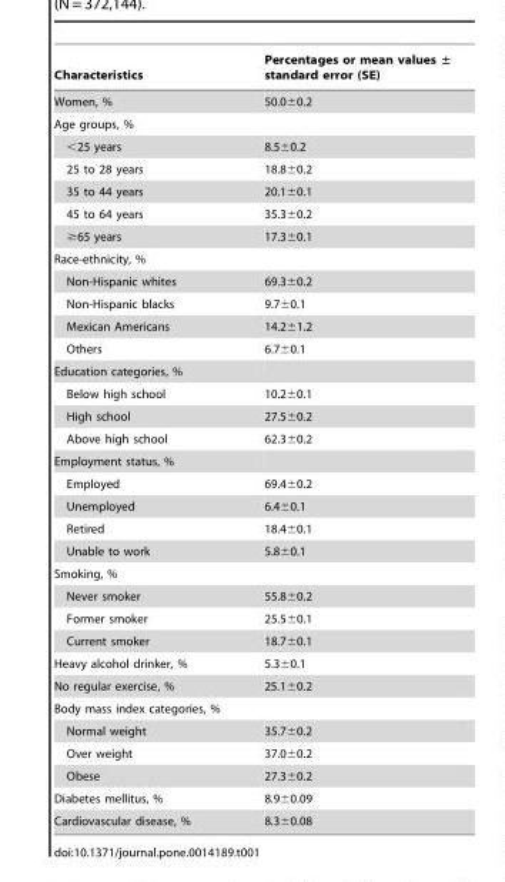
<table><thead><tr><td>Characteristics</td><td>Percentages or mean values ± standard error (SE)</td></tr></thead><tbody><tr><td>Women, %</td><td>50.0±0.2</td></tr><tr><td colspan="2">Age groups, %</td></tr><tr><td>&lt;25 years</td><td>8.5±0.2</td></tr><tr><td>25 to 28 years</td><td>18.8±0.2</td></tr><tr><td>35 to 44 years</td><td>20.1±0.1</td></tr><tr><td>45 to 64 years</td><td>35.3±0.2</td></tr><tr><td>≥65 years</td><td>17.3±0.1</td></tr><tr><td colspan="2">Race-ethnicity, %</td></tr><tr><td>Non-Hispanic whites</td><td>69.3±0.2</td></tr><tr><td>Non-Hispanic blacks</td><td>9.7±0.1</td></tr><tr><td>Mexican Americans</td><td>14.2±1.2</td></tr><tr><td>Others</td><td>6.7±0.1</td></tr><tr><td colspan="2">Education categories, %</td></tr><tr><td>Below high school</td><td>10.2±0.1</td></tr><tr><td>High school</td><td>27.5±0.2</td></tr><tr><td>Above high school</td><td>62.3±0.2</td></tr><tr><td colspan="2">Employment status, %</td></tr><tr><td>Employed</td><td>69.4±0.2</td></tr><tr><td>Unemployed</td><td>6.4±0.1</td></tr><tr><td>Retired</td><td>18.4±0.1</td></tr><tr><td>Unable to work</td><td>5.8±0.1</td></tr><tr><td colspan="2">Smoking, %</td></tr><tr><td>Never smoker</td><td>55.8±0.2</td></tr><tr><td>Former smoker</td><td>25.5±0.1</td></tr><tr><td>Current smoker</td><td>18.7±0.1</td></tr><tr><td>Heavy alcohol drinker, %</td><td>5.3±0.1</td></tr><tr><td>No regular exercise, %</td><td>25.1±0.2</td></tr><tr><td colspan="2">Body mass index categories, %</td></tr><tr><td>Normal weight</td><td>35.7±0.2</td></tr><tr><td>Over weight</td><td>37.0±0.2</td></tr><tr><td>Obese</td><td>27.3±0.2</td></tr><tr><td>Diabetes mellitus, %</td><td>8.9±0.09</td></tr><tr><td>Cardiovascular disease, %</td><td>8.3±0.08</td></tr></tbody></table>